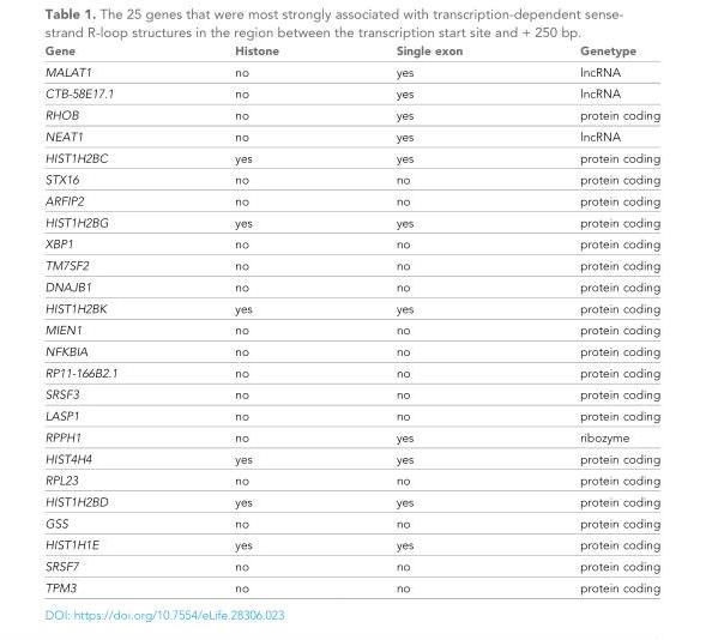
<table><thead><tr><td>Gene</td><td>Histone</td><td>Single exon</td><td>Genetype</td></tr></thead><tbody><tr><td>MALAT1</td><td>no</td><td>yes</td><td>lncRNA</td></tr><tr><td>CTB-58E17.1</td><td>no</td><td>yes</td><td>lncRNA</td></tr><tr><td>RHOB</td><td>no</td><td>yes</td><td>protein coding</td></tr><tr><td>NEAT1</td><td>no</td><td>yes</td><td>lncRNA</td></tr><tr><td>HIST1H2BC</td><td>yes</td><td>yes</td><td>protein coding</td></tr><tr><td>STX16</td><td>no</td><td>no</td><td>protein coding</td></tr><tr><td>ARFIP2</td><td>no</td><td>no</td><td>protein coding</td></tr><tr><td>HIST1H2BG</td><td>yes</td><td>yes</td><td>protein coding</td></tr><tr><td>XBP1</td><td>no</td><td>no</td><td>protein coding</td></tr><tr><td>TM7SF2</td><td>no</td><td>no</td><td>protein coding</td></tr><tr><td>DNAJB1</td><td>no</td><td>no</td><td>protein coding</td></tr><tr><td>HIST1H2BK</td><td>yes</td><td>yes</td><td>protein coding</td></tr><tr><td>MIEN1</td><td>no</td><td>no</td><td>protein coding</td></tr><tr><td>NFKBIA</td><td>no</td><td>no</td><td>protein coding</td></tr><tr><td>RP11-166B2.1</td><td>no</td><td>no</td><td>protein coding</td></tr><tr><td>SRSF3</td><td>no</td><td>no</td><td>protein coding</td></tr><tr><td>LASP1</td><td>no</td><td>no</td><td>protein coding</td></tr><tr><td>RPPH1</td><td>no</td><td>yes</td><td>ribozyme</td></tr><tr><td>HIST4H4</td><td>yes</td><td>yes</td><td>protein coding</td></tr><tr><td>RPL23</td><td>no</td><td>no</td><td>protein coding</td></tr><tr><td>HIST1H2BD</td><td>yes</td><td>yes</td><td>protein coding</td></tr><tr><td>GSS</td><td>no</td><td>no</td><td>protein coding</td></tr><tr><td>HIST1H1E</td><td>yes</td><td>yes</td><td>protein coding</td></tr><tr><td>SRSF7</td><td>no</td><td>no</td><td>protein coding</td></tr><tr><td>TPM3</td><td>no</td><td>no</td><td>protein coding</td></tr></tbody></table>